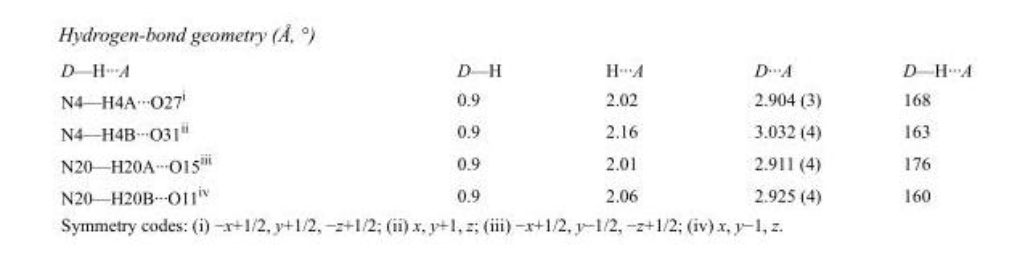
<table><tbody><tr><td>D—H···A</td><td>D—H</td><td>H···A</td><td>D···A</td><td>D—H···A</td></tr><tr><td>N4—H4A···O27<sup>i</sup></td><td>0.9</td><td>2.02</td><td>2.904 (3)</td><td>168</td></tr><tr><td>N4—H4B···O31<sup>ii</sup></td><td>0.9</td><td>2.16</td><td>3.032 (4)</td><td>163</td></tr><tr><td>N20—H20A···O15<sup>iii</sup></td><td>0.9</td><td>2.01</td><td>2.911 (4)</td><td>176</td></tr><tr><td>N20—H20B···O11<sup>iv</sup></td><td>0.9</td><td>2.06</td><td>2.925 (4)</td><td>160</td></tr></tbody></table>